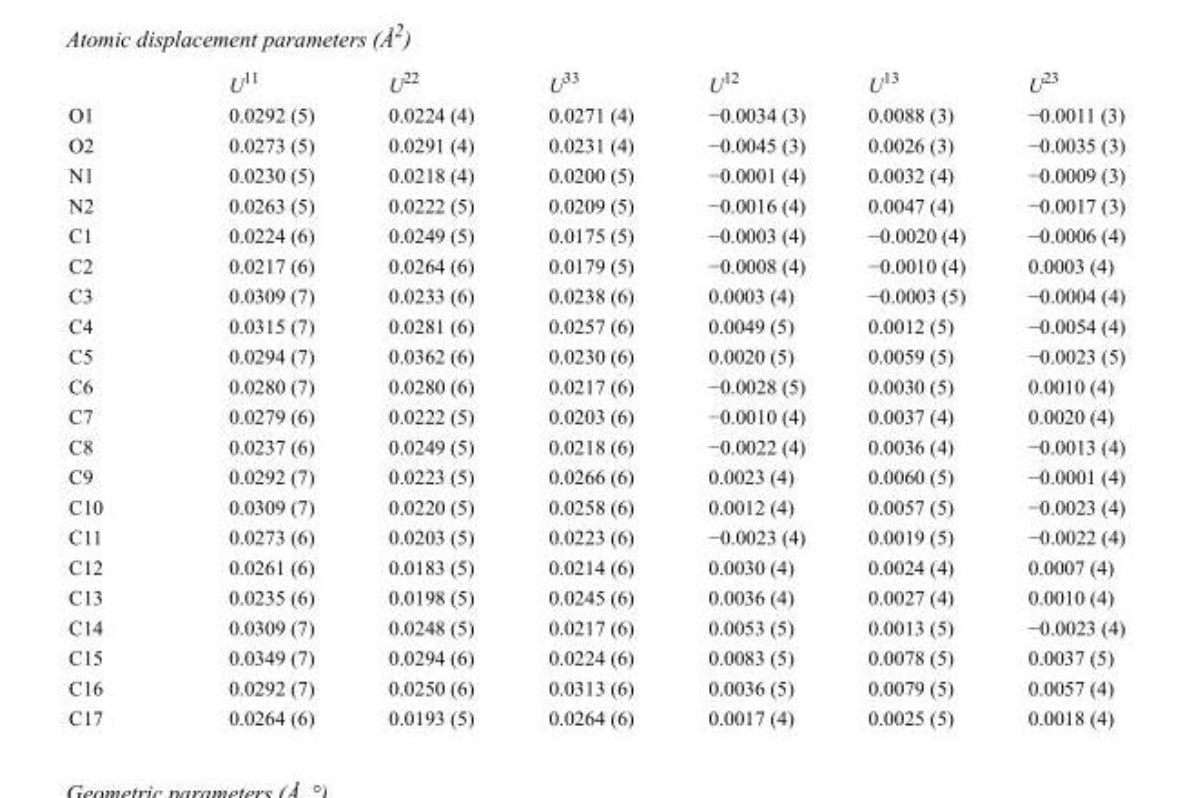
<table><thead><tr><td></td><td>U<sup>11</sup></td><td>U<sup>22</sup></td><td>U<sup>33</sup></td><td>U<sup>12</sup></td><td>U<sup>13</sup></td><td>U<sup>23</sup></td></tr></thead><tbody><tr><td>O1</td><td>0.0292 (5)</td><td>0.0224 (4)</td><td>0.0271 (4)</td><td>−0.0034 (3)</td><td>0.0088 (3)</td><td>−0.0011 (3)</td></tr><tr><td>O2</td><td>0.0273 (5)</td><td>0.0291 (4)</td><td>0.0231 (4)</td><td>−0.0045 (3)</td><td>0.0026 (3)</td><td>−0.0035 (3)</td></tr><tr><td>N1</td><td>0.0230 (5)</td><td>0.0218 (4)</td><td>0.0200 (5)</td><td>−0.0001 (4)</td><td>0.0032 (4)</td><td>−0.0009 (3)</td></tr><tr><td>N2</td><td>0.0263 (5)</td><td>0.0222 (5)</td><td>0.0209 (5)</td><td>−0.0016 (4)</td><td>0.0047 (4)</td><td>−0.0017 (3)</td></tr><tr><td>C1</td><td>0.0224 (6)</td><td>0.0249 (5)</td><td>0.0175 (5)</td><td>−0.0003 (4)</td><td>−0.0020 (4)</td><td>−0.0006 (4)</td></tr><tr><td>C2</td><td>0.0217 (6)</td><td>0.0264 (6)</td><td>0.0179 (5)</td><td>−0.0008 (4)</td><td>−0.0010 (4)</td><td>0.0003 (4)</td></tr><tr><td>C3</td><td>0.0309 (7)</td><td>0.0233 (6)</td><td>0.0238 (6)</td><td>0.0003 (4)</td><td>−0.0003 (5)</td><td>−0.0004 (4)</td></tr><tr><td>C4</td><td>0.0315 (7)</td><td>0.0281 (6)</td><td>0.0257 (6)</td><td>0.0049 (5)</td><td>0.0012 (5)</td><td>−0.0054 (4)</td></tr><tr><td>C5</td><td>0.0294 (7)</td><td>0.0362 (6)</td><td>0.0230 (6)</td><td>0.0020 (5)</td><td>0.0059 (5)</td><td>−0.0023 (5)</td></tr><tr><td>C6</td><td>0.0280 (7)</td><td>0.0280 (6)</td><td>0.0217 (6)</td><td>−0.0028 (5)</td><td>0.0030 (5)</td><td>0.0010 (4)</td></tr><tr><td>C7</td><td>0.0279 (6)</td><td>0.0222 (5)</td><td>0.0203 (6)</td><td>−0.0010 (4)</td><td>0.0037 (4)</td><td>0.0020 (4)</td></tr><tr><td>C8</td><td>0.0237 (6)</td><td>0.0249 (5)</td><td>0.0218 (6)</td><td>−0.0022 (4)</td><td>0.0036 (4)</td><td>−0.0013 (4)</td></tr><tr><td>C9</td><td>0.0292 (7)</td><td>0.0223 (5)</td><td>0.0266 (6)</td><td>0.0023 (4)</td><td>0.0060 (5)</td><td>−0.0001 (4)</td></tr><tr><td>C10</td><td>0.0309 (7)</td><td>0.0220 (5)</td><td>0.0258 (6)</td><td>0.0012 (4)</td><td>0.0057 (5)</td><td>−0.0023 (4)</td></tr><tr><td>C11</td><td>0.0273 (6)</td><td>0.0203 (5)</td><td>0.0223 (6)</td><td>−0.0023 (4)</td><td>0.0019 (5)</td><td>−0.0022 (4)</td></tr><tr><td>C12</td><td>0.0261 (6)</td><td>0.0183 (5)</td><td>0.0214 (6)</td><td>0.0030 (4)</td><td>0.0024 (4)</td><td>0.0007 (4)</td></tr><tr><td>C13</td><td>0.0235 (6)</td><td>0.0198 (5)</td><td>0.0245 (6)</td><td>0.0036 (4)</td><td>0.0027 (4)</td><td>0.0010 (4)</td></tr><tr><td>C14</td><td>0.0309 (7)</td><td>0.0248 (5)</td><td>0.0217 (6)</td><td>0.0053 (5)</td><td>0.0013 (5)</td><td>−0.0023 (4)</td></tr><tr><td>C15</td><td>0.0349 (7)</td><td>0.0294 (6)</td><td>0.0224 (6)</td><td>0.0083 (5)</td><td>0.0078 (5)</td><td>0.0037 (5)</td></tr><tr><td>C16</td><td>0.0292 (7)</td><td>0.0250 (6)</td><td>0.0313 (6)</td><td>0.0036 (5)</td><td>0.0079 (5)</td><td>0.0057 (4)</td></tr><tr><td>C17</td><td>0.0264 (6)</td><td>0.0193 (5)</td><td>0.0264 (6)</td><td>0.0017 (4)</td><td>0.0025 (5)</td><td>0.0018 (4)</td></tr></tbody></table>